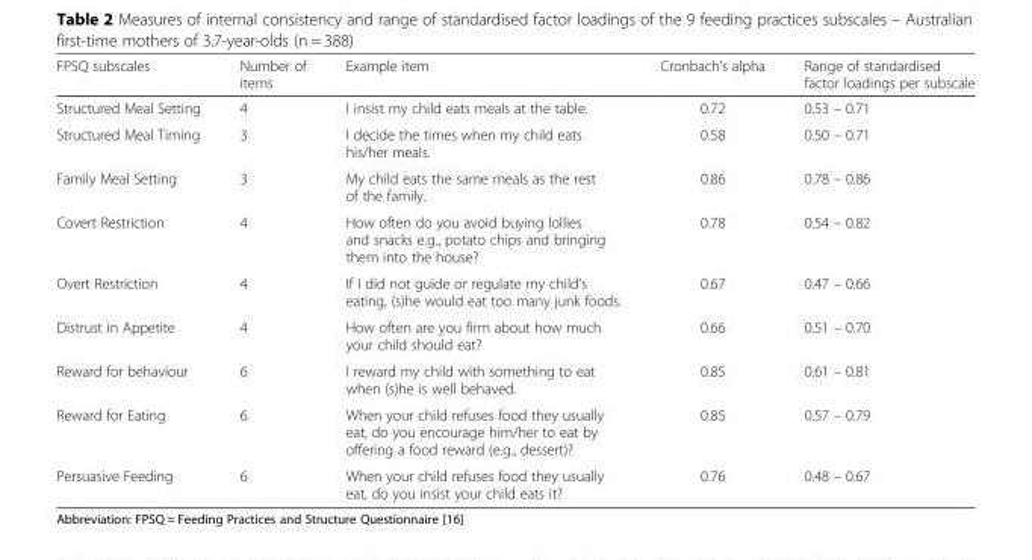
<table><thead><tr><td>FPSQ subscales</td><td>Number of items</td><td>Example item</td><td>Cronbach’s alpha</td><td>Range of standardised factor loadings per subscale</td></tr></thead><tbody><tr><td>Structured Meal Setting</td><td>4</td><td>I insist my child eats meals at the table.</td><td>0.72</td><td>0.53 – 0.71</td></tr><tr><td>Structured Meal Timing</td><td>3</td><td>I decide the times when my child eats his/her meals.</td><td>0.58</td><td>0.50 – 0.71</td></tr><tr><td>Family Meal Setting</td><td>3</td><td>My child eats the same meals as the rest of the family.</td><td>0.86</td><td>0.78 – 0.86</td></tr><tr><td>Covert Restriction</td><td>4</td><td>How often do you avoid buying lollies and snacks e.g., potato chips and bringing them into the house?</td><td>0.78</td><td>0.54 – 0.82</td></tr><tr><td>Overt Restriction</td><td>4</td><td>If I did not guide or regulate my child’s eating, (s)he would eat too many junk foods.</td><td>0.67</td><td>0.47 – 0.66</td></tr><tr><td>Distrust in Appetite</td><td>4</td><td>How often are you firm about how much your child should eat?</td><td>0.66</td><td>0.51 – 0.70</td></tr><tr><td>Reward for behaviour</td><td>6</td><td>I reward my child with something to eat when (s)he is well behaved.</td><td>0.85</td><td>0.61 – 0.81</td></tr><tr><td>Reward for Eating</td><td>6</td><td>When your child refuses food they usually eat, do you encourage him/her to eat by offering a food reward (e.g., dessert)?</td><td>0.85</td><td>0.57 – 0.79</td></tr><tr><td>Persuasive Feeding</td><td>6</td><td>When your child refuses food they usually eat, do you insist your child eats it?</td><td>0.76</td><td>0.48 – 0.67</td></tr></tbody></table>